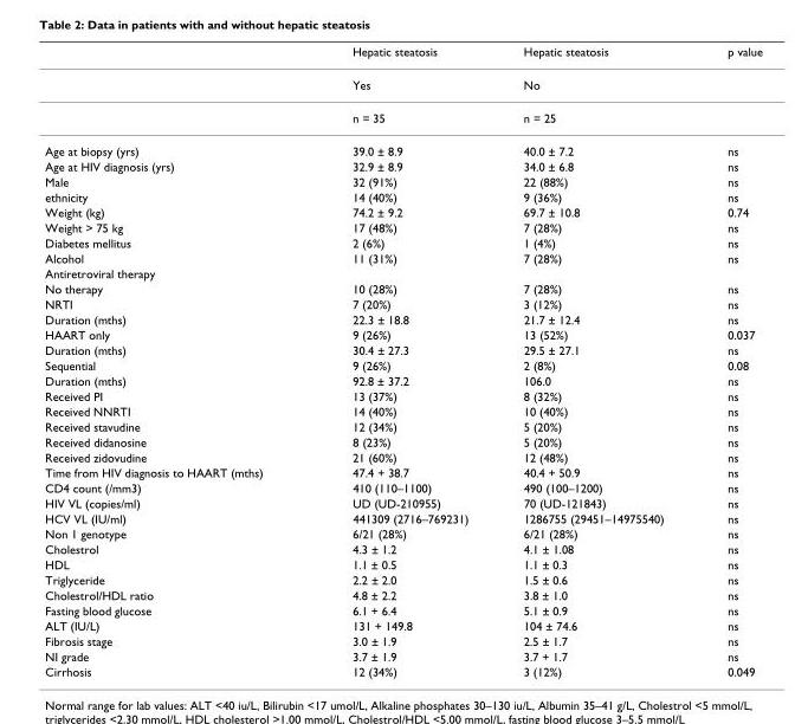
<table><thead><tr><td></td><td>Hepatic steatosis</td><td>Hepatic steatosis</td><td>p value</td></tr></thead><tbody><tr><td></td><td>Yes</td><td>No</td><td></td></tr><tr><td></td><td>n = 35</td><td>n = 25</td><td></td></tr><tr><td>Age at biopsy (yrs)</td><td>39.0 ± 8.9</td><td>40.0 ± 7.2</td><td>ns</td></tr><tr><td>Age at HIV diagnosis (yrs)</td><td>32.9 ± 8.9</td><td>34.0 ± 6.8</td><td>ns</td></tr><tr><td>Male</td><td>32 (91%)</td><td>22 (88%)</td><td>ns</td></tr><tr><td>ethnicity</td><td>14 (40%)</td><td>9 (36%)</td><td>ns</td></tr><tr><td>Weight (kg)</td><td>74.2 ± 9.2</td><td>69.7 ± 10.8</td><td>0.74</td></tr><tr><td>Weight &gt; 75 kg</td><td>17 (48%)</td><td>7 (28%)</td><td>ns</td></tr><tr><td>Diabetes mellitus</td><td>2 (6%)</td><td>1 (4%)</td><td>ns</td></tr><tr><td>Alcohol</td><td>11 (31%)</td><td>7 (28%)</td><td>ns</td></tr><tr><td colspan="4">Antiretroviral therapy</td></tr><tr><td>No therapy</td><td>10 (28%)</td><td>7 (28%)</td><td>ns</td></tr><tr><td>NRTI</td><td>7 (20%)</td><td>3 (12%)</td><td>ns</td></tr><tr><td>Duration (mths)</td><td>22.3 ± 18.8</td><td>21.7 ± 12.4</td><td>ns</td></tr><tr><td>HAART only</td><td>9 (26%)</td><td>13 (52%)</td><td>0.037</td></tr><tr><td>Duration (mths)</td><td>30.4 ± 27.3</td><td>29.5 ± 27.1</td><td>ns</td></tr><tr><td>Sequential</td><td>9 (26%)</td><td>2 (8%)</td><td>0.08</td></tr><tr><td>Duration (mths)</td><td>92.8 ± 37.2</td><td>106.0</td><td>ns</td></tr><tr><td>Received PI</td><td>13 (37%)</td><td>8 (32%)</td><td>ns</td></tr><tr><td>Received NNRTI</td><td>14 (40%)</td><td>10 (40%)</td><td>ns</td></tr><tr><td>Received stavudine</td><td>12 (34%)</td><td>5 (20%)</td><td>ns</td></tr><tr><td>Received didanosine</td><td>8 (23%)</td><td>5 (20%)</td><td>ns</td></tr><tr><td>Received zidovudine</td><td>21 (60%)</td><td>12 (48%)</td><td>ns</td></tr><tr><td>Time from HIV diagnosis to HAART (mths)</td><td>47.4 + 38.7</td><td>40.4 + 50.9</td><td>ns</td></tr><tr><td>CD4 count (/mm3)</td><td>410 (110–1100)</td><td>490 (100–1200)</td><td>ns</td></tr><tr><td>HIV VL (copies/ml)</td><td>UD (UD-210955)</td><td>70 (UD-121843)</td><td>ns</td></tr><tr><td>HCV VL (IU/ml)</td><td>441309 (2716–769231)</td><td>1286755 (29451–14975540)</td><td>ns</td></tr><tr><td>Non 1 genotype</td><td>6/21 (28%)</td><td>6/21 (28%)</td><td>ns</td></tr><tr><td>Cholestrol</td><td>4.3 ± 1.2</td><td>4.1 ± 1.08</td><td>ns</td></tr><tr><td>HDL</td><td>1.1 ± 0.5</td><td>1.1 ± 0.3</td><td>ns</td></tr><tr><td>Triglyceride</td><td>2.2 ± 2.0</td><td>1.5 ± 0.6</td><td>ns</td></tr><tr><td>Cholestrol/HDL ratio</td><td>4.8 ± 2.2</td><td>3.8 ± 1.0</td><td>ns</td></tr><tr><td>Fasting blood glucose</td><td>6.1 + 6.4</td><td>5.1 ± 0.9</td><td>ns</td></tr><tr><td>ALT (IU/L)</td><td>131 + 149.8</td><td>104 ± 74.6</td><td>ns</td></tr><tr><td>Fibrosis stage</td><td>3.0 ± 1.9</td><td>2.5 ± 1.7</td><td>ns</td></tr><tr><td>NI grade</td><td>3.7 ± 1.9</td><td>3.7 + 1.7</td><td>ns</td></tr><tr><td>Cirrhosis</td><td>12 (34%)</td><td>3 (12%)</td><td>0.049</td></tr></tbody></table>